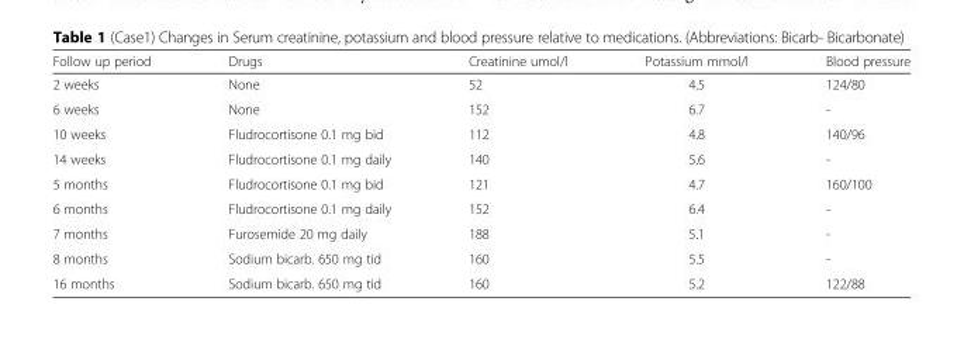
<table><thead><tr><td>Follow up period</td><td>Drugs</td><td>Creatinine umol/l</td><td>Potassium mmol/l</td><td>Blood pressure</td></tr></thead><tbody><tr><td>2 weeks</td><td>None</td><td>52</td><td>4.5</td><td>124/80</td></tr><tr><td>6 weeks</td><td>None</td><td>152</td><td>6.7</td><td>-</td></tr><tr><td>10 weeks</td><td>Fludrocortisone 0.1 mg bid</td><td>112</td><td>4.8</td><td>140/96</td></tr><tr><td>14 weeks</td><td>Fludrocortisone 0.1 mg daily</td><td>140</td><td>5.6</td><td>-</td></tr><tr><td>5 months</td><td>Fludrocortisone 0.1 mg bid</td><td>121</td><td>4.7</td><td>160/100</td></tr><tr><td>6 months</td><td>Fludrocortisone 0.1 mg daily</td><td>152</td><td>6.4</td><td>-</td></tr><tr><td>7 months</td><td>Furosemide 20 mg daily</td><td>188</td><td>5.1</td><td>-</td></tr><tr><td>8 months</td><td>Sodium bicarb. 650 mg tid</td><td>160</td><td>5.5</td><td>-</td></tr><tr><td>16 months</td><td>Sodium bicarb. 650 mg tid</td><td>160</td><td>5.2</td><td>122/88</td></tr></tbody></table>